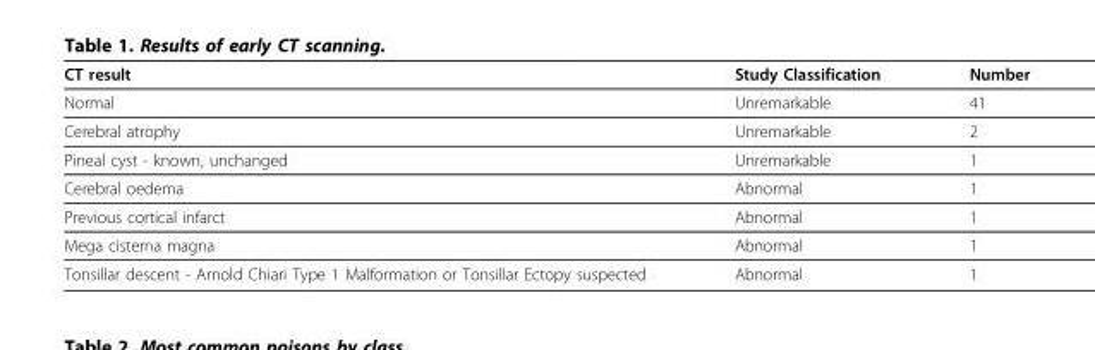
<table><thead><tr><td>CT result</td><td>Study Classification</td><td>Number</td></tr></thead><tbody><tr><td>Normal</td><td>Unremarkable</td><td>41</td></tr><tr><td>Cerebral atrophy</td><td>Unremarkable</td><td>2</td></tr><tr><td>Pineal cyst - known, unchanged</td><td>Unremarkable</td><td>1</td></tr><tr><td>Cerebral oedema</td><td>Abnormal</td><td>1</td></tr><tr><td>Previous cortical infarct</td><td>Abnormal</td><td>1</td></tr><tr><td>Mega cisterna magna</td><td>Abnormal</td><td>1</td></tr><tr><td>Tonsillar descent - Arnold Chiari Type 1 Malformation or Tonsillar Ectopy suspected</td><td>Abnormal</td><td>1</td></tr></tbody></table>